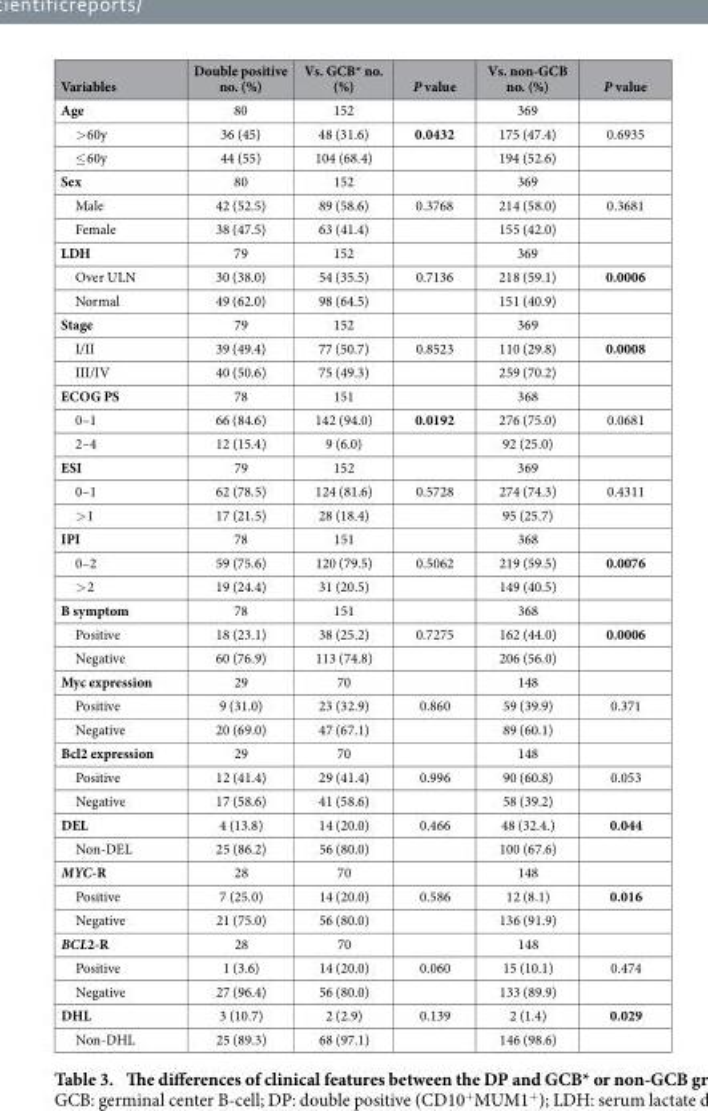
<table><thead><tr><td>Variables</td><td>Double positive no. (%)</td><td>Vs. GCB* no. (%)</td><td>P value</td><td>Vs. non-GCB no. (%)</td><td>P value</td></tr></thead><tbody><tr><td>Age</td><td>80</td><td>152</td><td></td><td>369</td><td></td></tr><tr><td>&gt; 60y</td><td>36 (45)</td><td>48 (31.6)</td><td>0.0432</td><td>175 (47.4)</td><td>0.6935</td></tr><tr><td>≤ 60y</td><td>44 (55)</td><td>104 (68.4)</td><td></td><td>194 (52.6)</td><td></td></tr><tr><td>Sex</td><td>80</td><td>152</td><td></td><td>369</td><td></td></tr><tr><td>Male</td><td>42 (52.5)</td><td>89 (58.6)</td><td>0.3768</td><td>214 (58.0)</td><td>0.3681</td></tr><tr><td>Female</td><td>38 (47.5)</td><td>63 (41.4)</td><td></td><td>155 (42.0)</td><td></td></tr><tr><td>LDH</td><td>79</td><td>152</td><td></td><td>369</td><td></td></tr><tr><td>Over ULN</td><td>30 (38.0)</td><td>54 (35.5)</td><td>0.7136</td><td>218 (59.1)</td><td>0.0006</td></tr><tr><td>Normal</td><td>49 (62.0)</td><td>98 (64.5)</td><td></td><td>151 (40.9)</td><td></td></tr><tr><td>Stage</td><td>79</td><td>152</td><td></td><td>369</td><td></td></tr><tr><td>I/II</td><td>39 (49.4)</td><td>77 (50.7)</td><td>0.8523</td><td>110 (29.8)</td><td>0.0008</td></tr><tr><td>III/IV</td><td>40 (50.6)</td><td>75 (49.3)</td><td></td><td>259 (70.2)</td><td></td></tr><tr><td>ECOG PS</td><td>78</td><td>151</td><td></td><td>368</td><td></td></tr><tr><td>0–1</td><td>66 (84.6)</td><td>142 (94.0)</td><td>0.0192</td><td>276 (75.0)</td><td>0.0681</td></tr><tr><td>2–4</td><td>12 (15.4)</td><td>9 (6.0)</td><td></td><td>92 (25.0)</td><td></td></tr><tr><td>ESI</td><td>79</td><td>152</td><td></td><td>369</td><td></td></tr><tr><td>0–1</td><td>62 (78.5)</td><td>124 (81.6)</td><td>0.5728</td><td>274 (74.3)</td><td>0.4311</td></tr><tr><td>&gt; 1</td><td>17 (21.5)</td><td>28 (18.4)</td><td></td><td>95 (25.7)</td><td></td></tr><tr><td>IPI</td><td>78</td><td>151</td><td></td><td>368</td><td></td></tr><tr><td>0–2</td><td>59 (75.6)</td><td>120 (79.5)</td><td>0.5062</td><td>219 (59.5)</td><td>0.0076</td></tr><tr><td>&gt; 2</td><td>19 (24.4)</td><td>31 (20.5)</td><td></td><td>149 (40.5)</td><td></td></tr><tr><td>B symptom</td><td>78</td><td>151</td><td></td><td>368</td><td></td></tr><tr><td>Positive</td><td>18 (23.1)</td><td>38 (25.2)</td><td>0.7275</td><td>162 (44.0)</td><td>0.0006</td></tr><tr><td>Negative</td><td>60 (76.9)</td><td>113 (74.8)</td><td></td><td>206 (56.0)</td><td></td></tr><tr><td>Myc expression</td><td>29</td><td>70</td><td></td><td>148</td><td></td></tr><tr><td>Positive</td><td>9 (31.0)</td><td>23 (32.9)</td><td>0.860</td><td>59 (39.9)</td><td>0.371</td></tr><tr><td>Negative</td><td>20 (69.0)</td><td>47 (67.1)</td><td></td><td>89 (60.1)</td><td></td></tr><tr><td>Bcl2 expression</td><td>29</td><td>70</td><td></td><td>148</td><td></td></tr><tr><td>Positive</td><td>12 (41.4)</td><td>29 (41.4)</td><td>0.996</td><td>90 (60.8)</td><td>0.053</td></tr><tr><td>Negative</td><td>17 (58.6)</td><td>41 (58.6)</td><td></td><td>58 (39.2)</td><td></td></tr><tr><td>DEL</td><td>4 (13.8)</td><td>14 (20.0)</td><td>0.466</td><td>48 (32.4.)</td><td>0.044</td></tr><tr><td>Non-DEL</td><td>25 (86.2)</td><td>56 (80.0)</td><td></td><td>100 (67.6)</td><td></td></tr><tr><td>MYC-R</td><td>28</td><td>70</td><td></td><td>148</td><td></td></tr><tr><td>Positive</td><td>7 (25.0)</td><td>14 (20.0)</td><td>0.586</td><td>12 (8.1)</td><td>0.016</td></tr><tr><td>Negative</td><td>21 (75.0)</td><td>56 (80.0)</td><td></td><td>136 (91.9)</td><td></td></tr><tr><td>BCL2-R</td><td>28</td><td>70</td><td></td><td>148</td><td></td></tr><tr><td>Positive</td><td>1 (3.6)</td><td>14 (20.0)</td><td>0.060</td><td>15 (10.1)</td><td>0.474</td></tr><tr><td>Negative</td><td>27 (96.4)</td><td>56 (80.0)</td><td></td><td>133 (89.9)</td><td></td></tr><tr><td>DHL</td><td>3 (10.7)</td><td>2 (2.9)</td><td>0.139</td><td>2 (1.4)</td><td>0.029</td></tr><tr><td>Non-DHL</td><td>25 (89.3)</td><td>68 (97.1)</td><td></td><td>146 (98.6)</td><td></td></tr></tbody></table>